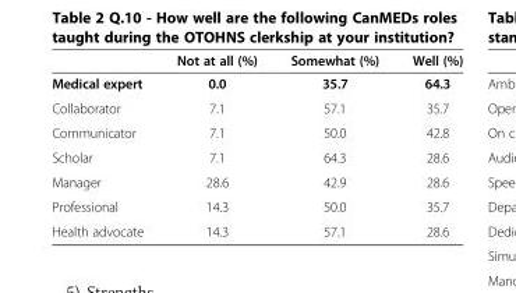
<table><thead><tr><td></td><td>Not at all (%)</td><td>Somewhat (%)</td><td>Well (%)</td></tr></thead><tbody><tr><td>Medical expert</td><td>0.0</td><td>35.7</td><td>64.3</td></tr><tr><td>Collaborator</td><td>7.1</td><td>57.1</td><td>35.7</td></tr><tr><td>Communicator</td><td>7.1</td><td>50.0</td><td>42.8</td></tr><tr><td>Scholar</td><td>7.1</td><td>64.3</td><td>28.6</td></tr><tr><td>Manager</td><td>28.6</td><td>42.9</td><td>28.6</td></tr><tr><td>Professional</td><td>14.3</td><td>50.0</td><td>35.7</td></tr><tr><td>Health advocate</td><td>14.3</td><td>57.1</td><td>28.6</td></tr></tbody></table>